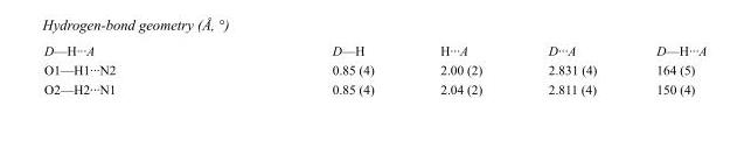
<table><tbody><tr><td>D—H···A</td><td>D—H</td><td>H···A</td><td>D···A</td><td>D—H···A</td></tr><tr><td>O1—H1···N2</td><td>0.85 (4)</td><td>2.00 (2)</td><td>2.831 (4)</td><td>164 (5)</td></tr><tr><td>O2—H2···N1</td><td>0.85 (4)</td><td>2.04 (2)</td><td>2.811 (4)</td><td>150 (4)</td></tr></tbody></table>